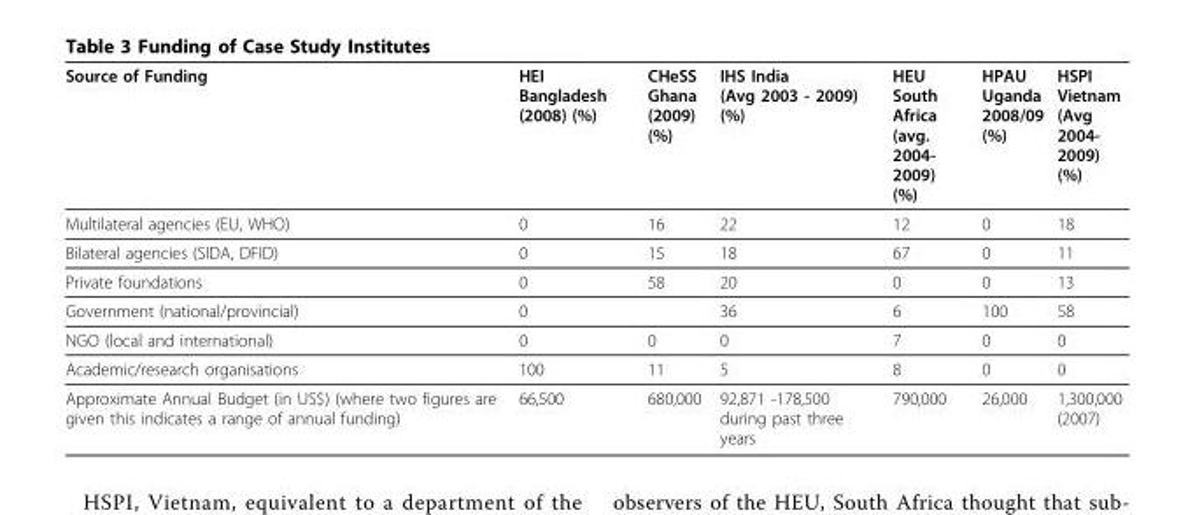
<table><thead><tr><td>Source of Funding</td><td>HEI Bangladesh (2008) (%)</td><td>CHeSS Ghana (2009) (%)</td><td>IHS India (Avg 2003 - 2009) (%)</td><td>HEU South Africa (avg. 2004- 2009) (%)</td><td>HPAU Uganda 2008/09 (%)</td><td>HSPI Vietnam (Avg 2004- 2009) (%)</td></tr></thead><tbody><tr><td>Multilateral agencies (EU, WHO)</td><td>0</td><td>16</td><td>22</td><td>12</td><td>0</td><td>18</td></tr><tr><td>Bilateral agencies (SIDA, DFID)</td><td>0</td><td>15</td><td>18</td><td>67</td><td>0</td><td>11</td></tr><tr><td>Private foundations</td><td>0</td><td>58</td><td>20</td><td>0</td><td>0</td><td>13</td></tr><tr><td>Government (national/provincial)</td><td>0</td><td></td><td>36</td><td>6</td><td>100</td><td>58</td></tr><tr><td>NGO (local and international)</td><td>0</td><td>0</td><td>0</td><td>7</td><td>0</td><td>0</td></tr><tr><td>Academic/research organisations</td><td>100</td><td>11</td><td>5</td><td>8</td><td>0</td><td>0</td></tr><tr><td>Approximate Annual Budget (in US$) (where two figures are given this indicates a range of annual funding)</td><td>66,500</td><td>680,000</td><td>92,871 -178,500 during past three years</td><td>790,000</td><td>26,000</td><td>1,300,000 (2007)</td></tr></tbody></table>